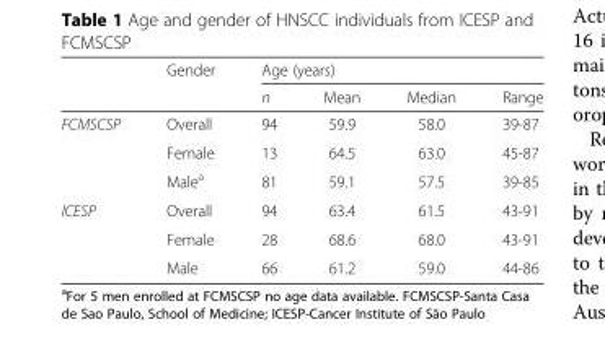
<table><thead><tr><td rowspan="2"></td><td rowspan="2">Gender</td><td colspan="4">Age (years)</td></tr><tr><td>n</td><td>Mean</td><td>Median</td><td>Range</td></tr></thead><tbody><tr><td rowspan="3">FCMSCSP</td><td>Overall</td><td>94</td><td>59.9</td><td>58.0</td><td>39-87</td></tr><tr><td>Female</td><td>13</td><td>64.5</td><td>63.0</td><td>45-87</td></tr><tr><td>Male<sup>a</sup></td><td>81</td><td>59.1</td><td>57.5</td><td>39-85</td></tr><tr><td rowspan="3">ICESP</td><td>Overall</td><td>94</td><td>63.4</td><td>61.5</td><td>43-91</td></tr><tr><td>Female</td><td>28</td><td>68.6</td><td>68.0</td><td>43-91</td></tr><tr><td>Male</td><td>66</td><td>61.2</td><td>59.0</td><td>44-86</td></tr></tbody></table>